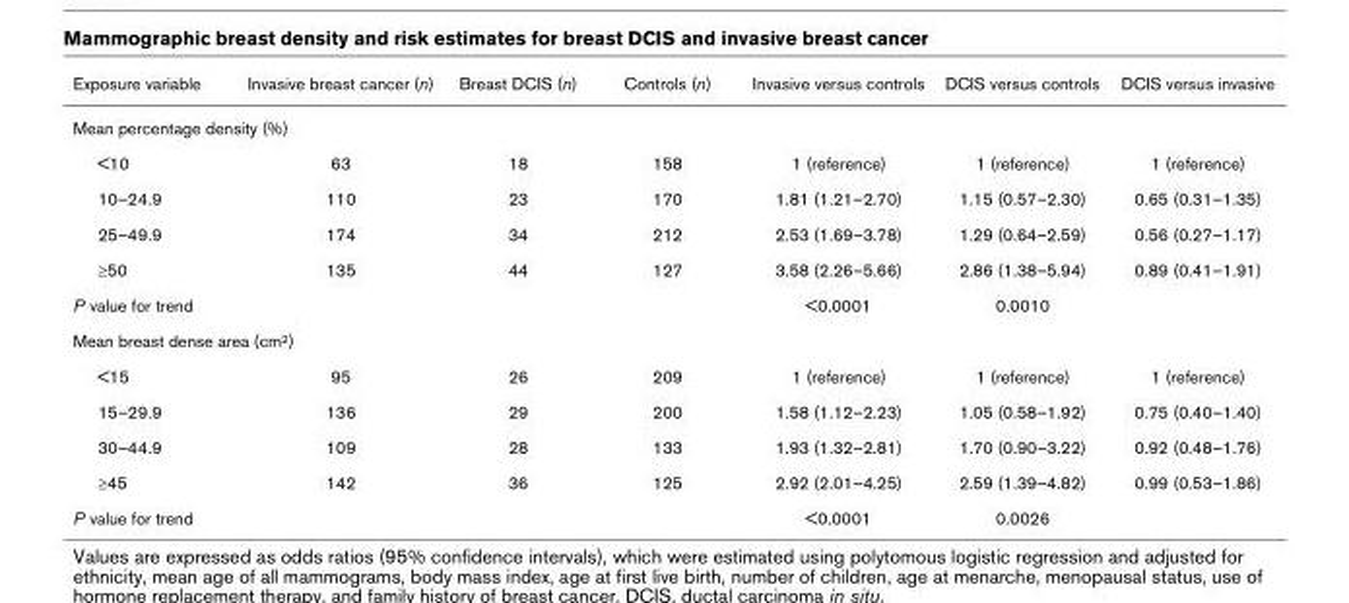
<table><thead><tr><td>Exposure variable</td><td>Invasive breast cancer (n)</td><td>Breast DCIS (n)</td><td>Controls (n)</td><td>Invasive versus controls</td><td>DCIS versus controls</td><td>DCIS versus invasive</td></tr></thead><tbody><tr><td colspan="7">Mean percentage density (%)</td></tr><tr><td>&lt;10</td><td>63</td><td>18</td><td>158</td><td>1 (reference)</td><td>1 (reference)</td><td>1 (reference)</td></tr><tr><td>10–24.9</td><td>110</td><td>23</td><td>170</td><td>1.81 (1.21–2.70)</td><td>1.15 (0.57–2.30)</td><td>0.65 (0.31–1.35)</td></tr><tr><td>25–49.9</td><td>174</td><td>34</td><td>212</td><td>2.53 (1.69–3.78)</td><td>1.29 (0.64–2.59)</td><td>0.56 (0.27–1.17)</td></tr><tr><td>≥50</td><td>135</td><td>44</td><td>127</td><td>3.58 (2.26–5.66)</td><td>2.86 (1.38–5.94)</td><td>0.89 (0.41–1.91)</td></tr><tr><td>P value for trend</td><td></td><td></td><td></td><td>&lt;0.0001</td><td>0.0010</td><td></td></tr><tr><td colspan="7">Mean breast dense area (cm2)</td></tr><tr><td>&lt;15</td><td>95</td><td>26</td><td>209</td><td>1 (reference)</td><td>1 (reference)</td><td>1 (reference)</td></tr><tr><td>15–29.9</td><td>136</td><td>29</td><td>200</td><td>1.58 (1.12–2.23)</td><td>1.05 (0.58–1.92)</td><td>0.75 (0.40–1.40)</td></tr><tr><td>30–44.9</td><td>109</td><td>28</td><td>133</td><td>1.93 (1.32–2.81)</td><td>1.70 (0.90–3.22)</td><td>0.92 (0.48–1.76)</td></tr><tr><td>≥45</td><td>142</td><td>36</td><td>125</td><td>2.92 (2.01–4.25)</td><td>2.59 (1.39–4.82)</td><td>0.99 (0.53–1.86)</td></tr><tr><td>P value for trend</td><td></td><td></td><td></td><td>&lt;0.0001</td><td>0.0026</td><td></td></tr></tbody></table>